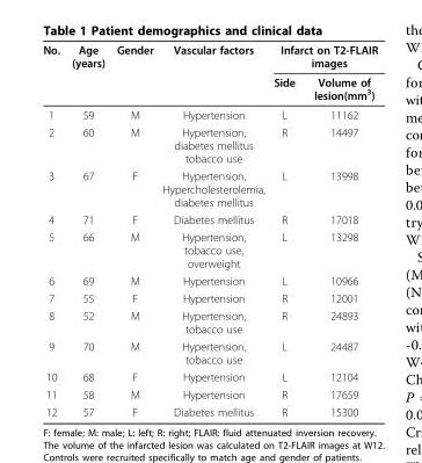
<table><thead><tr><td rowspan="2">No.</td><td rowspan="2">Age (years)</td><td rowspan="2">Gender</td><td rowspan="2">Vascular factors</td><td colspan="2">Infarct on T2-FLAIR images</td></tr><tr><td>Side</td><td>Volume of lesion(mm<sup>3</sup>)</td></tr></thead><tbody><tr><td>1</td><td>59</td><td>M</td><td>Hypertension</td><td>L</td><td>11162</td></tr><tr><td>2</td><td>60</td><td>M</td><td>Hypertension, diabetes mellitus tobacco use</td><td>R</td><td>14497</td></tr><tr><td>3</td><td>67</td><td>F</td><td>Hypertension, Hypercholesterolemia, diabetes mellitus</td><td>L</td><td>13998</td></tr><tr><td>4</td><td>71</td><td>F</td><td>Diabetes mellitus</td><td>R</td><td>17018</td></tr><tr><td>5</td><td>66</td><td>M</td><td>Hypertension, tobacco use, overweight</td><td>L</td><td>13298</td></tr><tr><td>6</td><td>69</td><td>M</td><td>Hypertension</td><td>L</td><td>10966</td></tr><tr><td>7</td><td>55</td><td>F</td><td>Hypertension</td><td>R</td><td>12001</td></tr><tr><td>8</td><td>52</td><td>M</td><td>Hypertension, tobacco use</td><td>R</td><td>24893</td></tr><tr><td>9</td><td>70</td><td>M</td><td>Hypertension, tobacco use</td><td>L</td><td>24487</td></tr><tr><td>10</td><td>68</td><td>F</td><td>Hypertension</td><td>L</td><td>12104</td></tr><tr><td>11</td><td>58</td><td>M</td><td>Hypertension</td><td>R</td><td>17659</td></tr><tr><td>12</td><td>57</td><td>F</td><td>Diabetes mellitus</td><td>R</td><td>15300</td></tr></tbody></table>